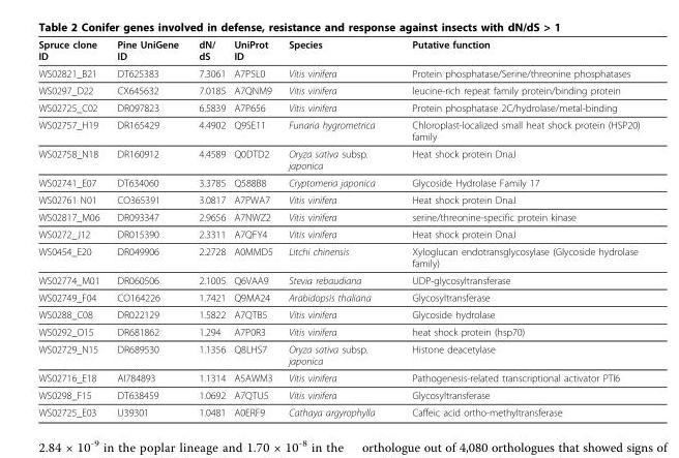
<table><thead><tr><td>Spruce clone ID</td><td>Pine UniGene ID</td><td>dN/ dS</td><td>UniProt ID</td><td>Species</td><td>Putative function</td></tr></thead><tbody><tr><td>WS02821_B21</td><td>DT625383</td><td>7.3061</td><td>A7P5L0</td><td>Vitis vinifera</td><td>Protein phosphatase/Serine/threonine phosphatases</td></tr><tr><td>WS0297_D22</td><td>CX645632</td><td>7.0185</td><td>A7QNM9</td><td>Vitis vinifera</td><td>leucine-rich repeat family protein/binding protein</td></tr><tr><td>WS02725_C02</td><td>DR097823</td><td>6.5839</td><td>A7P656</td><td>Vitis vinifera</td><td>Protein phosphatase 2C/hydrolase/metal-binding</td></tr><tr><td>WS02757_H19</td><td>DR165429</td><td>4.4902</td><td>Q9SE11</td><td>Funaria hygrometrica</td><td>Chloroplast-localized small heat shock protein (HSP20) family</td></tr><tr><td>WS02758_N18</td><td>DR160912</td><td>4.4589</td><td>Q0DTD2</td><td>Oryza sativa subsp. japonica</td><td>Heat shock protein DnaJ</td></tr><tr><td>WS02741_E07</td><td>DT634060</td><td>3.3785</td><td>Q588B8</td><td>Cryptomeria japonica</td><td>Glycoside Hydrolase Family 17</td></tr><tr><td>WS02761 N01</td><td>CO365391</td><td>3.0817</td><td>A7PWA7</td><td>Vitis vinifera</td><td>Heat shock protein DnaJ</td></tr><tr><td>WS02817_M06</td><td>DR093347</td><td>2.9656</td><td>A7NWZ2</td><td>Vitis vinifera</td><td>serine/threonine-specific protein kinase</td></tr><tr><td>WS0272_J12</td><td>DR015390</td><td>2.3311</td><td>A7QFY4</td><td>Vitis vinifera</td><td>Heat shock protein DnaJ</td></tr><tr><td>WS0454_E20</td><td>DR049906</td><td>2.2728</td><td>A0MMD5</td><td>Litchi chinensis</td><td>Xyloglucan endotransglycosylase (Glycoside hydrolase family)</td></tr><tr><td>WS02774_M01</td><td>DR060506</td><td>2.1005</td><td>Q6VAA9</td><td>Stevia rebaudiana</td><td>UDP-glycosyltransferase</td></tr><tr><td>WS02749_F04</td><td>CO164226</td><td>1.7421</td><td>Q9MA24</td><td>Arabidopsis thaliana</td><td>Glycosyltransferase</td></tr><tr><td>WS0288_C08</td><td>DR022129</td><td>1.5822</td><td>A7QTB5</td><td>Vitis vinifera</td><td>Glycoside hydrolase</td></tr><tr><td>WS0292_O15</td><td>DR681862</td><td>1.294</td><td>A7P0R3</td><td>Vitis vinifera</td><td>heat shock protein (hsp70)</td></tr><tr><td>WS02729_N15</td><td>DR689530</td><td>1.1356</td><td>Q8LHS7</td><td>Oryza sativa subsp. japonica</td><td>Histone deacetylase</td></tr><tr><td>WS02716_E18</td><td>AI784893</td><td>1.1314</td><td>A5AWM3</td><td>Vitis vinifera</td><td>Pathogenesis-related transcriptional activator PTI6</td></tr><tr><td>WS0298_F15</td><td>DT638459</td><td>1.0692</td><td>A7QTU5</td><td>Vitis vinifera</td><td>Glycosyltransferase</td></tr><tr><td>WS02725_E03</td><td>U39301</td><td>1.0481</td><td>A0ERF9</td><td>Cathaya argyrophylla</td><td>Caffeic acid ortho-methyltransferase</td></tr></tbody></table>